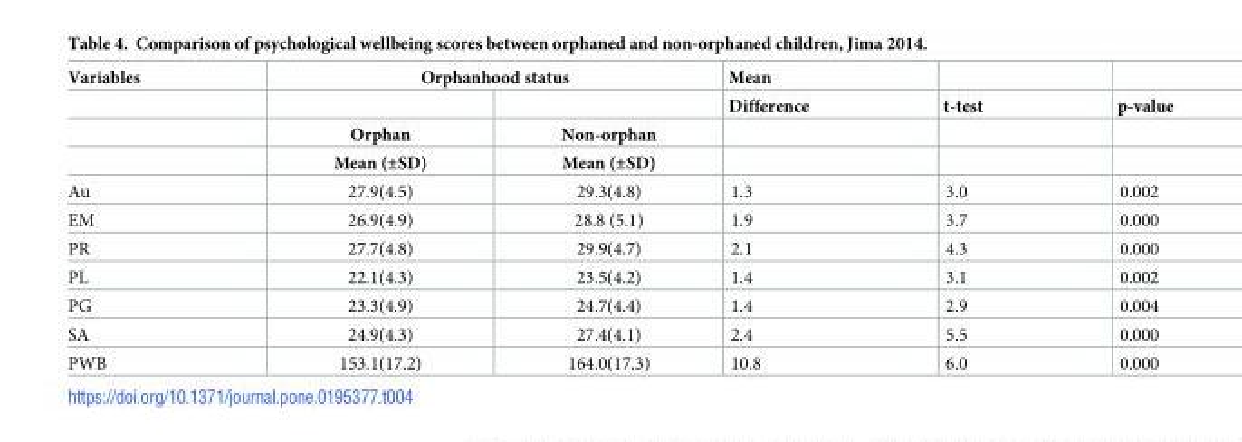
<table><thead><tr><td rowspan="4">Variables</td><td colspan="2">Orphanhood status</td><td rowspan="4">Mean Difference</td><td rowspan="4">t-test</td><td rowspan="4">p-value</td></tr><tr><td rowspan="3">Orphan Mean (±SD)</td><td rowspan="3">Non-orphan Mean (±SD)</td></tr><tr></tr><tr></tr></thead><tbody><tr><td>Au</td><td>27.9(4.5)</td><td>29.3(4.8)</td><td>1.3</td><td>3.0</td><td>0.002</td></tr><tr><td>EM</td><td>26.9(4.9)</td><td>28.8 (5.1)</td><td>1.9</td><td>3.7</td><td>0.000</td></tr><tr><td>PR</td><td>27.7(4.8)</td><td>29.9(4.7)</td><td>2.1</td><td>4.3</td><td>0.000</td></tr><tr><td>PL</td><td>22.1(4.3)</td><td>23.5(4.2)</td><td>1.4</td><td>3.1</td><td>0.002</td></tr><tr><td>PG</td><td>23.3(4.9)</td><td>24.7(4.4)</td><td>1.4</td><td>2.9</td><td>0.004</td></tr><tr><td>SA</td><td>24.9(4.3)</td><td>27.4(4.1)</td><td>2.4</td><td>5.5</td><td>0.000</td></tr><tr><td>PWB</td><td>153.1(17.2)</td><td>164.0(17.3)</td><td>10.8</td><td>6.0</td><td>0.000</td></tr></tbody></table>